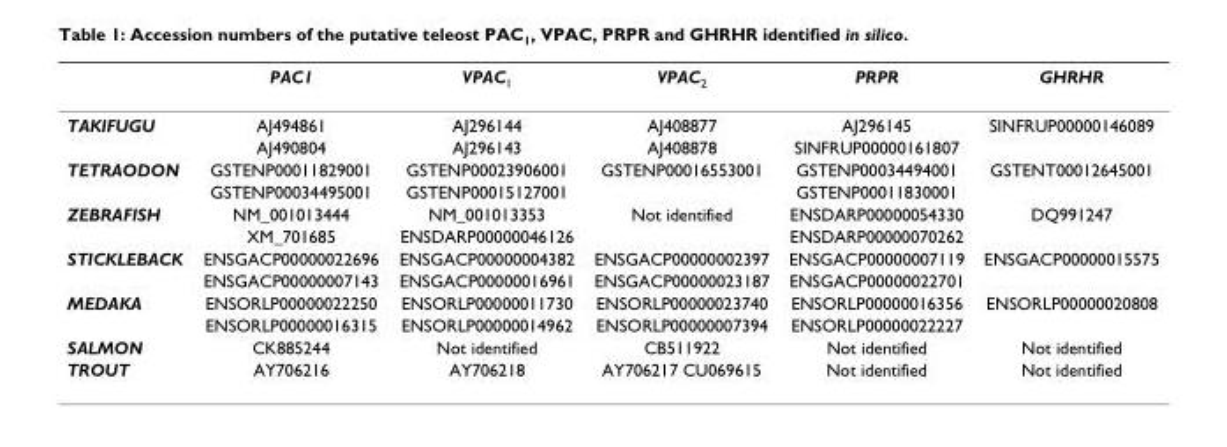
<table><thead><tr><td></td><td>PAC1</td><td>VPAC<sub>1</sub></td><td>VPAC<sub>2</sub></td><td>PRPR</td><td>GHRHR</td></tr></thead><tbody><tr><td rowspan="2">TAKIFUGU</td><td>AJ494861</td><td>AJ296144</td><td>AJ408877</td><td>AJ296145</td><td>SINFRUP00000146089</td></tr><tr><td>AJ490804</td><td>AJ296143</td><td>AJ408878</td><td>SINFRUP00000161807</td><td></td></tr><tr><td rowspan="2">TETRAODON</td><td>GSTENP00011829001</td><td>GSTENP00023906001</td><td>GSTENP00016553001</td><td>GSTENP00034494001</td><td>GSTENT00012645001</td></tr><tr><td>GSTENP00034495001</td><td>GSTENP00015127001</td><td></td><td>GSTENP00011830001</td><td></td></tr><tr><td rowspan="2">ZEBRAFISH</td><td>NM_001013444</td><td>NM_001013353</td><td>Not identified</td><td>ENSDARP00000054330</td><td>DQ991247</td></tr><tr><td>XM_701685</td><td>ENSDARP00000046126</td><td></td><td>ENSDARP00000070262</td><td></td></tr><tr><td rowspan="2">STICKLEBACK</td><td>ENSGACP00000022696</td><td>ENSGACP00000004382</td><td>ENSGACP00000002397</td><td>ENSGACP00000007119</td><td>ENSGACP00000015575</td></tr><tr><td>ENSGACP00000007143</td><td>ENSGACP00000016961</td><td>ENSGACP00000023187</td><td>ENSGACP00000022701</td><td></td></tr><tr><td rowspan="2">MEDAKA</td><td>ENSORLP00000022250</td><td>ENSORLP00000011730</td><td>ENSORLP00000023740</td><td>ENSORLP00000016356</td><td>ENSORLP00000020808</td></tr><tr><td>ENSORLP00000016315</td><td>ENSORLP00000014962</td><td>ENSORLP00000007394</td><td>ENSORLP00000022227</td><td></td></tr><tr><td>SALMON</td><td>CK885244</td><td>Not identified</td><td>CB511922</td><td>Not identified</td><td>Not identified</td></tr><tr><td>TROUT</td><td>AY706216</td><td>AY706218</td><td>AY706217 CU069615</td><td>Not identified</td><td>Not identified</td></tr></tbody></table>